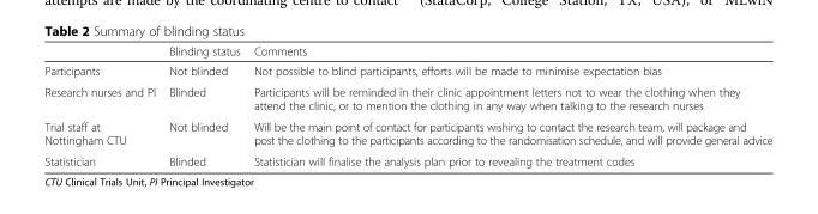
<table><thead><tr><td></td><td>Blinding status</td><td>Comments</td></tr></thead><tbody><tr><td>Participants</td><td>Not blinded</td><td>Not possible to blind participants, efforts will be made to minimise expectation bias</td></tr><tr><td>Research nurses and PI</td><td>Blinded</td><td>Participants will be reminded in their clinic appointment letters not to wear the clothing when they attend the clinic, or to mention the clothing in any way when talking to the research nurses</td></tr><tr><td>Trial staff at Nottingham CTU</td><td>Not blinded</td><td>Will be the main point of contact for participants wishing to contact the research team, will package and post the clothing to the participants according to the randomisation schedule, and will provide general advice</td></tr><tr><td>Statistician</td><td>Blinded</td><td>Statistician will finalise the analysis plan prior to revealing the treatment codes</td></tr></tbody></table>